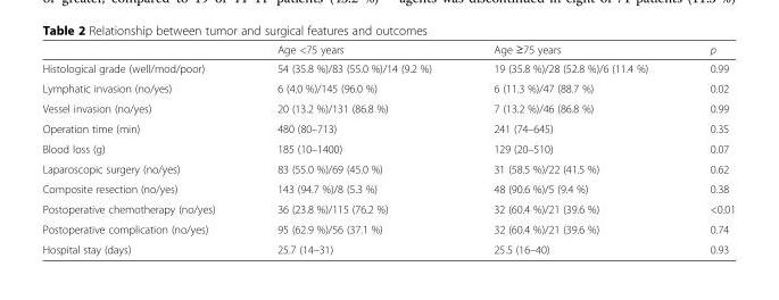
<table><thead><tr><td></td><td>Age &lt;75 years</td><td>Age ≥75 years</td><td>p</td></tr></thead><tbody><tr><td>Histological grade (well/mod/poor)</td><td>54 (35.8 %)/83 (55.0 %)/14 (9.2 %)</td><td>19 (35.8 %)/28 (52.8 %)/6 (11.4 %)</td><td>0.99</td></tr><tr><td>Lymphatic invasion (no/yes)</td><td>6 (4.0 %)/145 (96.0 %)</td><td>6 (11.3 %)/47 (88.7 %)</td><td>0.02</td></tr><tr><td>Vessel invasion (no/yes)</td><td>20 (13.2 %)/131 (86.8 %)</td><td>7 (13.2 %)/46 (86.8 %)</td><td>0.99</td></tr><tr><td>Operation time (min)</td><td>480 (80–713)</td><td>241 (74–645)</td><td>0.35</td></tr><tr><td>Blood loss (g)</td><td>185 (10–1400)</td><td>129 (20–510)</td><td>0.07</td></tr><tr><td>Laparoscopic surgery (no/yes)</td><td>83 (55.0 %)/69 (45.0 %)</td><td>31 (58.5 %)/22 (41.5 %)</td><td>0.62</td></tr><tr><td>Composite resection (no/yes)</td><td>143 (94.7 %)/8 (5.3 %)</td><td>48 (90.6 %)/5 (9.4 %)</td><td>0.38</td></tr><tr><td>Postoperative chemotherapy (no/yes)</td><td>36 (23.8 %)/115 (76.2 %)</td><td>32 (60.4 %)/21 (39.6 %)</td><td>&lt;0.01</td></tr><tr><td>Postoperative complication (no/yes)</td><td>95 (62.9 %)/56 (37.1 %)</td><td>32 (60.4 %)/21 (39.6 %)</td><td>0.74</td></tr><tr><td>Hospital stay (days)</td><td>25.7 (14–31)</td><td>25.5 (16–40)</td><td>0.93</td></tr></tbody></table>